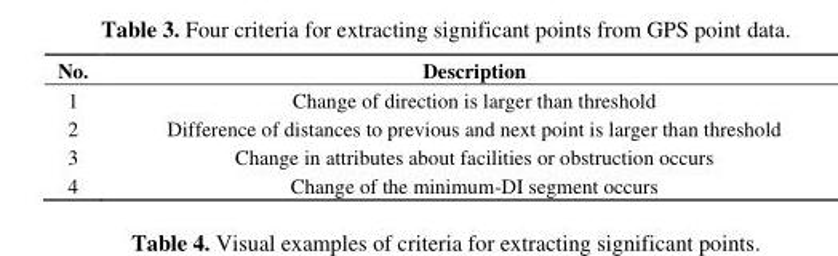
<table><thead><tr><td>No.</td><td>Description</td></tr></thead><tbody><tr><td>1</td><td>Change of direction is larger than threshold</td></tr><tr><td>2</td><td>Difference of distances to previous and next point is larger than threshold</td></tr><tr><td>3</td><td>Change in attributes about facilities or obstruction occurs</td></tr><tr><td>4</td><td>Change of the minimum-DI segment occurs</td></tr></tbody></table>